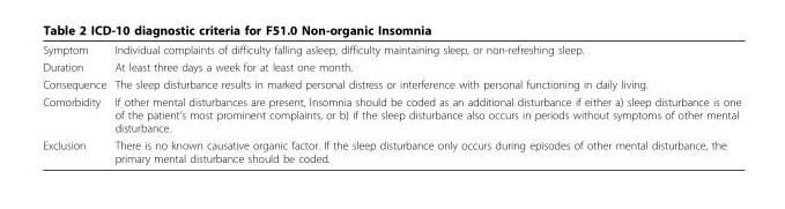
<table><tbody><tr><td>Symptom</td><td>Individual complaints of difficulty falling asleep, difficulty maintaining sleep, or non-refreshing sleep.</td></tr><tr><td>Duration</td><td>At least three days a week for at least one month.</td></tr><tr><td>Consequence</td><td>The sleep disturbance results in marked personal distress or interference with personal functioning in daily living.</td></tr><tr><td>Comorbidity</td><td>If other mental disturbances are present, Insomnia should be coded as an additional disturbance if either a) sleep disturbance is one of the patient’s most prominent complaints, or b) if the sleep disturbance also occurs in periods without symptoms of other mental disturbance.</td></tr><tr><td>Exclusion</td><td>There is no known causative organic factor. If the sleep disturbance only occurs during episodes of other mental disturbance, the primary mental disturbance should be coded.</td></tr></tbody></table>